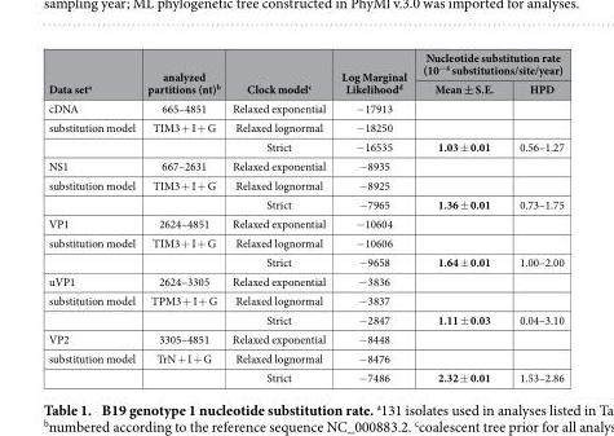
<table><thead><tr><td rowspan="2">Data set<sup>a</sup></td><td rowspan="2">analyzed partitions (nt)<sup>b</sup></td><td rowspan="2">Clock model<sup>c</sup></td><td rowspan="2">Log Marginal Likelihood<sup>d</sup></td><td colspan="2">Nucleotide substitution rate (10<sup>−4</sup> substitutions/site/year)</td></tr><tr><td>Mean ± S.E.</td><td>HPD</td></tr></thead><tbody><tr><td>cDNA</td><td>665–4851</td><td>Relaxed exponential</td><td>− 17913</td><td></td><td></td></tr><tr><td rowspan="2">substitution model</td><td>TIM3 + I + G</td><td>Relaxed lognormal</td><td>− 18250</td><td></td><td></td></tr><tr><td></td><td>Strict</td><td>− 16535</td><td>1.03 ± 0.01</td><td>0.56–1.27</td></tr><tr><td>NS1</td><td>667–2631</td><td>Relaxed exponential</td><td>− 8935</td><td></td><td></td></tr><tr><td rowspan="2">substitution model</td><td>TIM3 + I + G</td><td>Relaxed lognormal</td><td>− 8925</td><td></td><td></td></tr><tr><td></td><td>Strict</td><td>− 7965</td><td>1.36 ± 0.01</td><td>0.73–1.75</td></tr><tr><td>VP1</td><td>2624–4851</td><td>Relaxed exponential</td><td>− 10604</td><td></td><td></td></tr><tr><td rowspan="2">substitution model</td><td>TIM3 + I + G</td><td>Relaxed lognormal</td><td>− 10606</td><td></td><td></td></tr><tr><td></td><td>Strict</td><td>− 9658</td><td>1.64 ± 0.01</td><td>1.00–2.00</td></tr><tr><td>uVP1</td><td>2624–3305</td><td>Relaxed exponential</td><td>− 3836</td><td></td><td></td></tr><tr><td rowspan="2">substitution model</td><td>TPM3 + I + G</td><td>Relaxed lognormal</td><td>− 3837</td><td></td><td></td></tr><tr><td></td><td>Strict</td><td>− 2847</td><td>1.11 ± 0.03</td><td>0.04–3.10</td></tr><tr><td>VP2</td><td>3305–4851</td><td>Relaxed exponential</td><td>− 8448</td><td></td><td></td></tr><tr><td rowspan="2">substitution model</td><td>TrN + I + G</td><td>Relaxed lognormal</td><td>− 8476</td><td></td><td></td></tr><tr><td></td><td>Strict</td><td>− 7486</td><td>2.32 ± 0.01</td><td>1.53–2.86</td></tr></tbody></table>